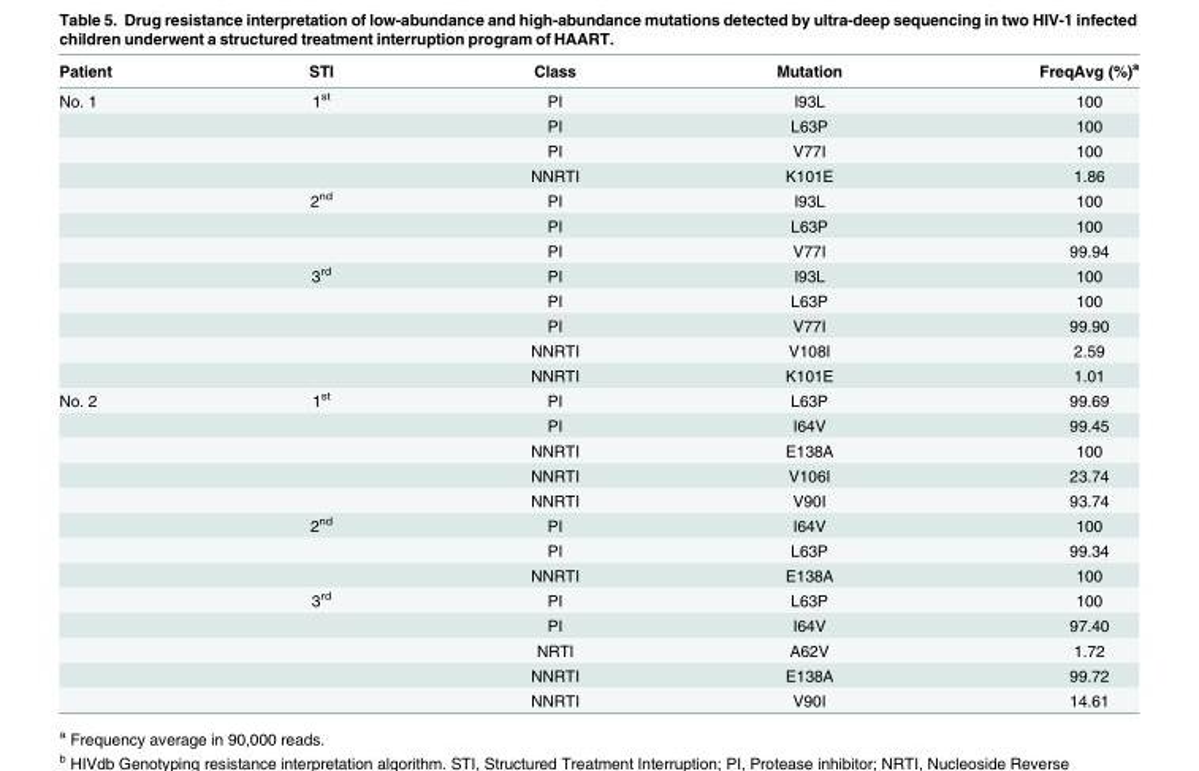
<table><thead><tr><td>Patient</td><td>STI</td><td>Class</td><td>Mutation</td><td>FreqAvg (%)<sup>a</sup></td></tr></thead><tbody><tr><td rowspan="12">No. 1</td><td>1<sup>st</sup></td><td>PI</td><td>I93L</td><td>100</td></tr><tr><td></td><td>PI</td><td>L63P</td><td>100</td></tr><tr><td></td><td>PI</td><td>V77I</td><td>100</td></tr><tr><td></td><td>NNRTI</td><td>K101E</td><td>1.86</td></tr><tr><td>2<sup>nd</sup></td><td>PI</td><td>I93L</td><td>100</td></tr><tr><td></td><td>PI</td><td>L63P</td><td>100</td></tr><tr><td></td><td>PI</td><td>V77I</td><td>99.94</td></tr><tr><td>3<sup>rd</sup></td><td>PI</td><td>I93L</td><td>100</td></tr><tr><td></td><td>PI</td><td>L63P</td><td>100</td></tr><tr><td></td><td>PI</td><td>V77I</td><td>99.90</td></tr><tr><td></td><td>NNRTI</td><td>V108I</td><td>2.59</td></tr><tr><td></td><td>NNRTI</td><td>K101E</td><td>1.01</td></tr><tr><td rowspan="13">No. 2</td><td>1<sup>st</sup></td><td>PI</td><td>L63P</td><td>99.69</td></tr><tr><td></td><td>PI</td><td>I64V</td><td>99.45</td></tr><tr><td></td><td>NNRTI</td><td>E138A</td><td>100</td></tr><tr><td></td><td>NNRTI</td><td>V106I</td><td>23.74</td></tr><tr><td></td><td>NNRTI</td><td>V90I</td><td>93.74</td></tr><tr><td>2<sup>nd</sup></td><td>PI</td><td>I64V</td><td>100</td></tr><tr><td></td><td>PI</td><td>L63P</td><td>99.34</td></tr><tr><td></td><td>NNRTI</td><td>E138A</td><td>100</td></tr><tr><td>3<sup>rd</sup></td><td>PI</td><td>L63P</td><td>100</td></tr><tr><td></td><td>PI</td><td>I64V</td><td>97.40</td></tr><tr><td></td><td>NRTI</td><td>A62V</td><td>1.72</td></tr><tr><td></td><td>NNRTI</td><td>E138A</td><td>99.72</td></tr><tr><td></td><td>NNRTI</td><td>V90I</td><td>14.61</td></tr></tbody></table>